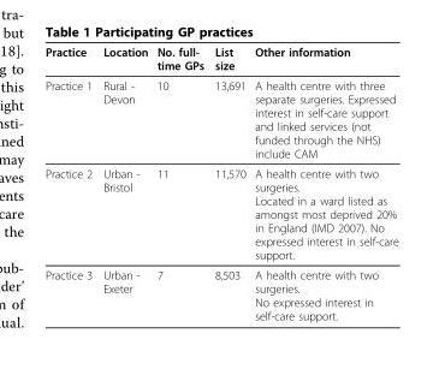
<table><thead><tr><td>Practice</td><td>Location</td><td>No. full- time GPs</td><td>List size</td><td>Other information</td></tr></thead><tbody><tr><td>Practice 1</td><td>Rural - Devon</td><td>10</td><td>13,691</td><td>A health centre with three separate surgeries. Expressed interest in self-care support and linked services (not funded through the NHS) include CAM</td></tr><tr><td>Practice 2</td><td>Urban - Bristol</td><td>11</td><td>11,570</td><td>A health centre with two surgeries. Located in a ward listed as amongst most deprived 20% in England (IMD 2007). No expressed interest in self-care support.</td></tr><tr><td>Practice 3</td><td>Urban - Exeter</td><td>7</td><td>8,503</td><td>A health centre with two surgeries. No expressed interest in self-care support.</td></tr></tbody></table>